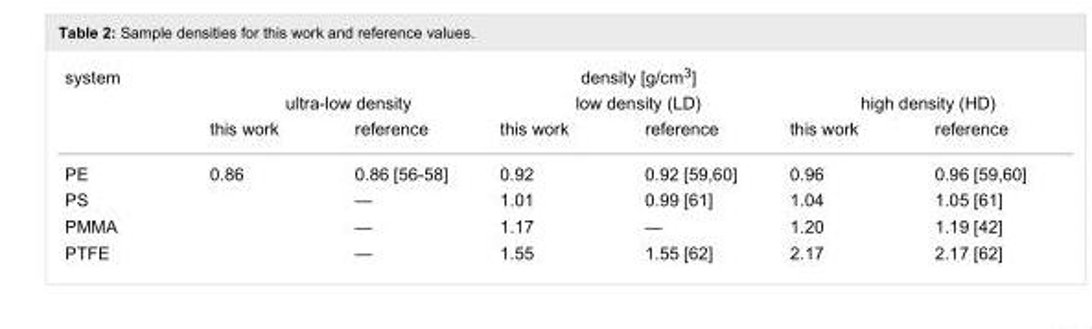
<table><tbody><tr><td rowspan="3">system</td><td colspan="6">density [g/cm<sup>3</sup>]</td></tr><tr><td colspan="2">ultra-low density</td><td colspan="2">low density (LD)</td><td colspan="2">high density (HD)</td></tr><tr><td>this work</td><td>reference</td><td>this work</td><td>reference</td><td>this work</td><td>reference</td></tr><tr><td>PE</td><td>0.86</td><td>0.86 [56-58]</td><td>0.92</td><td>0.92 [59–60]</td><td>0.96</td><td>0.96 [59–60]</td></tr><tr><td>PS</td><td></td><td>—</td><td>1.01</td><td>0.99 [61]</td><td>1.04</td><td>1.05 [61]</td></tr><tr><td>PMMA</td><td></td><td>—</td><td>1.17</td><td>—</td><td>1.20</td><td>1.19 [42]</td></tr><tr><td>PTFE</td><td></td><td>—</td><td>1.55</td><td>1.55 [62]</td><td>2.17</td><td>2.17 [62]</td></tr></tbody></table>